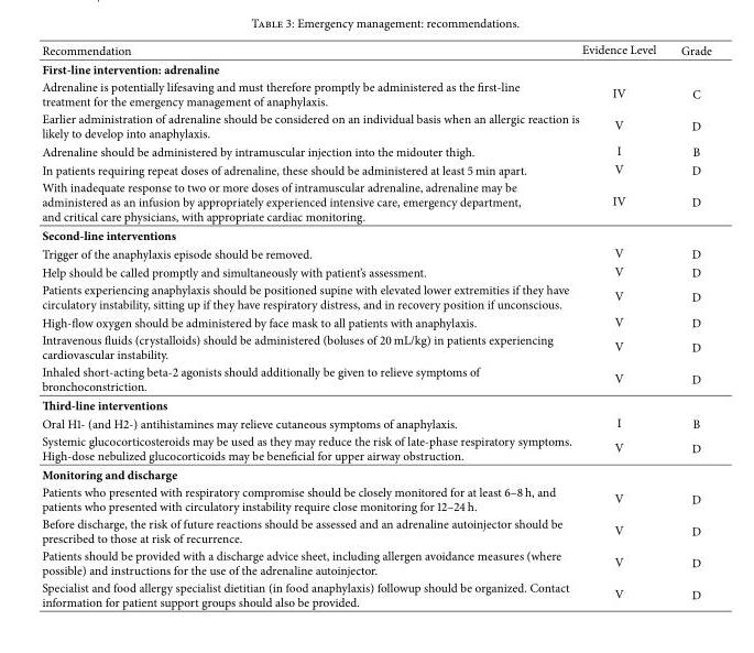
<table><thead><tr><td>Recommendation</td><td>Evidence Level</td><td>Grade</td></tr></thead><tbody><tr><td colspan="3">First-line intervention: adrenaline</td></tr><tr><td>Adrenaline is potentially lifesaving and must therefore promptly be administered as the first-line treatment for the emergency management of anaphylaxis.</td><td>IV</td><td>C</td></tr><tr><td>Earlier administration of adrenaline should be considered on an individual basis when an allergic reaction is likely to develop into anaphylaxis.</td><td>V</td><td>D</td></tr><tr><td>Adrenaline should be administered by intramuscular injection into the midouter thigh.</td><td>I</td><td>B</td></tr><tr><td>In patients requiring repeat doses of adrenaline, these should be administered at least 5 min apart.</td><td>V</td><td>D</td></tr><tr><td>With inadequate response to two or more doses of intramuscular adrenaline, adrenaline may be administered as an infusion by appropriately experienced intensive care, emergency department, and critical care physicians, with appropriate cardiac monitoring.</td><td>IV</td><td>D</td></tr><tr><td colspan="3">Second-line interventions</td></tr><tr><td>Trigger of the anaphylaxis episode should be removed.</td><td>V</td><td>D</td></tr><tr><td>Help should be called promptly and simultaneously with patient’s assessment.</td><td>V</td><td>D</td></tr><tr><td>Patients experiencing anaphylaxis should be positioned supine with elevated lower extremities if they have circulatory instability, sitting up if they have respiratory distress, and in recovery position if unconscious.</td><td>V</td><td>D</td></tr><tr><td>High-flow oxygen should be administered by face mask to all patients with anaphylaxis.</td><td>V</td><td>D</td></tr><tr><td>Intravenous fluids (crystalloids) should be administered (boluses of 20 mL/kg) in patients experiencing cardiovascular instability.</td><td>V</td><td>D</td></tr><tr><td>Inhaled short-acting beta-2 agonists should additionally be given to relieve symptoms of bronchoconstriction.</td><td>V</td><td>D</td></tr><tr><td colspan="3">Third-line interventions</td></tr><tr><td>Oral H1- (and H2-) antihistamines may relieve cutaneous symptoms of anaphylaxis.</td><td>I</td><td>B</td></tr><tr><td>Systemic glucocorticosteroids may be used as they may reduce the risk of late-phase respiratory symptoms. High-dose nebulized glucocorticoids may be beneficial for upper airway obstruction.</td><td>V</td><td>D</td></tr><tr><td colspan="3">Monitoring and discharge</td></tr><tr><td>Patients who presented with respiratory compromise should be closely monitored for at least 6–8 h, and patients who presented with circulatory instability require close monitoring for 12–24 h.</td><td>V</td><td>D</td></tr><tr><td>Before discharge, the risk of future reactions should be assessed and an adrenaline autoinjector should be prescribed to those at risk of recurrence.</td><td>V</td><td>D</td></tr><tr><td>Patients should be provided with a discharge advice sheet, including allergen avoidance measures (where possible) and instructions for the use of the adrenaline autoinjector.</td><td>V</td><td>D</td></tr><tr><td>Specialist and food allergy specialist dietitian (in food anaphylaxis) followup should be organized. Contact information for patient support groups should also be provided.</td><td>V</td><td>D</td></tr></tbody></table>